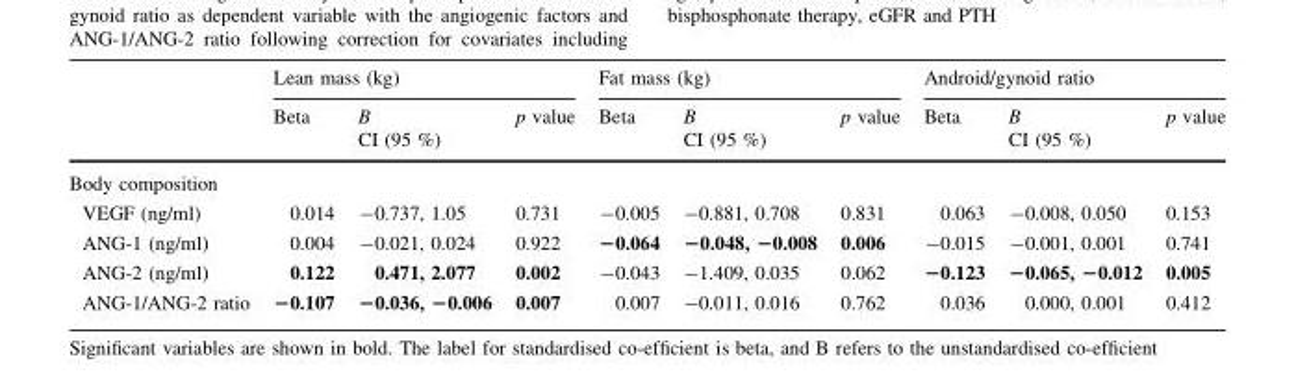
<table><thead><tr><td rowspan="2"></td><td colspan="3">Lean mass (kg)</td><td colspan="3">Fat mass (kg)</td><td colspan="3">Android/gynoid ratio</td></tr><tr><td>Beta</td><td>B CI (95 %)</td><td>p value</td><td>Beta</td><td>B CI (95 %)</td><td>p value</td><td>Beta</td><td>B CI (95 %)</td><td>p value</td></tr></thead><tbody><tr><td colspan="10">Body composition</td></tr><tr><td>VEGF (ng/ml)</td><td>0.014</td><td>-0.737, 1.05</td><td>0.731</td><td>-0.005</td><td>-0.881, 0.708</td><td>0.831</td><td>0.063</td><td>-0.008, 0.050</td><td>0.153</td></tr><tr><td>ANG-1 (ng/ml)</td><td>0.004</td><td>-0.021, 0.024</td><td>0.922</td><td>−0.064</td><td>−0.048, −0.008</td><td>0.006</td><td>-0.015</td><td>-0.001, 0.001</td><td>0.741</td></tr><tr><td>ANG-2 (ng/ml)</td><td>0.122</td><td>0.471, 2.077</td><td>0.002</td><td>-0.043</td><td>-1.409, 0.035</td><td>0.062</td><td>−0.123</td><td>−0.065, −0.012</td><td>0.005</td></tr><tr><td>ANG-1/ANG-2 ratio</td><td>−0.107</td><td>−0.036, −0.006</td><td>0.007</td><td>0.007</td><td>-0.011, 0.016</td><td>0.762</td><td>0.036</td><td>0.000, 0.001</td><td>0.412</td></tr></tbody></table>